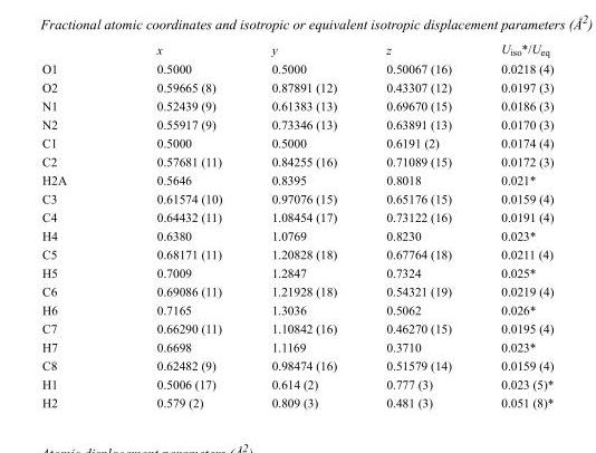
<table><thead><tr><td></td><td>x</td><td>y</td><td>z</td><td>U<sub>iso</sub>*/U<sub>eq</sub></td></tr></thead><tbody><tr><td>O1</td><td>0.5000</td><td>0.5000</td><td>0.50067 (16)</td><td>0.0218 (4)</td></tr><tr><td>O2</td><td>0.59665 (8)</td><td>0.87891 (12)</td><td>0.43307 (12)</td><td>0.0197 (3)</td></tr><tr><td>N1</td><td>0.52439 (9)</td><td>0.61383 (13)</td><td>0.69670 (15)</td><td>0.0186 (3)</td></tr><tr><td>N2</td><td>0.55917 (9)</td><td>0.73346 (13)</td><td>0.63891 (13)</td><td>0.0170 (3)</td></tr><tr><td>C1</td><td>0.5000</td><td>0.5000</td><td>0.6191 (2)</td><td>0.0174 (4)</td></tr><tr><td>C2</td><td>0.57681 (11)</td><td>0.84255 (16)</td><td>0.71089 (15)</td><td>0.0172 (3)</td></tr><tr><td>H2A</td><td>0.5646</td><td>0.8395</td><td>0.8018</td><td>0.021*</td></tr><tr><td>C3</td><td>0.61574 (10)</td><td>0.97076 (15)</td><td>0.65176 (15)</td><td>0.0159 (4)</td></tr><tr><td>C4</td><td>0.64432 (11)</td><td>1.08454 (17)</td><td>0.73122 (16)</td><td>0.0191 (4)</td></tr><tr><td>H4</td><td>0.6380</td><td>1.0769</td><td>0.8230</td><td>0.023*</td></tr><tr><td>C5</td><td>0.68171 (11)</td><td>1.20828 (18)</td><td>0.67764 (18)</td><td>0.0211 (4)</td></tr><tr><td>H5</td><td>0.7009</td><td>1.2847</td><td>0.7324</td><td>0.025*</td></tr><tr><td>C6</td><td>0.69086 (11)</td><td>1.21928 (18)</td><td>0.54321 (19)</td><td>0.0219 (4)</td></tr><tr><td>H6</td><td>0.7165</td><td>1.3036</td><td>0.5062</td><td>0.026*</td></tr><tr><td>C7</td><td>0.66290 (11)</td><td>1.10842 (16)</td><td>0.46270 (15)</td><td>0.0195 (4)</td></tr><tr><td>H7</td><td>0.6698</td><td>1.1169</td><td>0.3710</td><td>0.023*</td></tr><tr><td>C8</td><td>0.62482 (9)</td><td>0.98474 (16)</td><td>0.51579 (14)</td><td>0.0159 (4)</td></tr><tr><td>H1</td><td>0.5006 (17)</td><td>0.614 (2)</td><td>0.777 (3)</td><td>0.023 (5)*</td></tr><tr><td>H2</td><td>0.579 (2)</td><td>0.809 (3)</td><td>0.481 (3)</td><td>0.051 (8)*</td></tr></tbody></table>